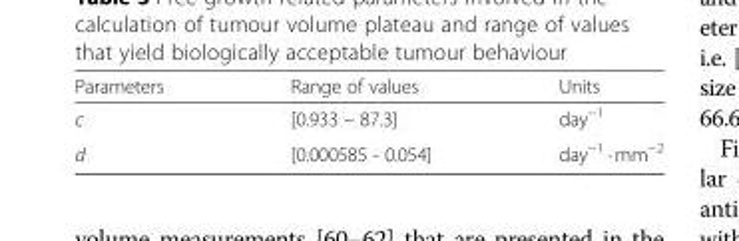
<table><thead><tr><td>Parameters</td><td>Range of values</td><td>Units</td></tr></thead><tbody><tr><td>c</td><td>[0.933 – 87.3]</td><td>day<sup>−1</sup></td></tr><tr><td>d</td><td>[0.000585 - 0.054]</td><td>day<sup>−1</sup> · mm<sup>−2</sup></td></tr></tbody></table>